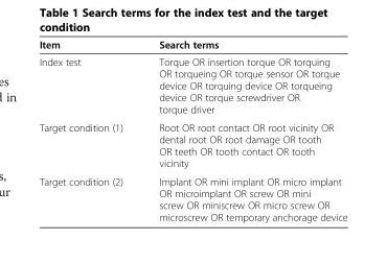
<table><thead><tr><td>Item</td><td>Search terms</td></tr></thead><tbody><tr><td>Index test</td><td>Torque OR insertion torque OR torquing OR torqueing OR torque sensor OR torque device OR torquing device OR torqueing device OR torque screwdriver OR torque driver</td></tr><tr><td>Target condition (1)</td><td>Root OR root contact OR root vicinity OR dental root OR root damage OR tooth OR teeth OR tooth contact OR tooth vicinity</td></tr><tr><td>Target condition (2)</td><td>Implant OR mini implant OR micro implant OR microimplant OR screw OR mini screw OR miniscrew OR micro screw OR microscrew OR temporary anchorage device</td></tr></tbody></table>